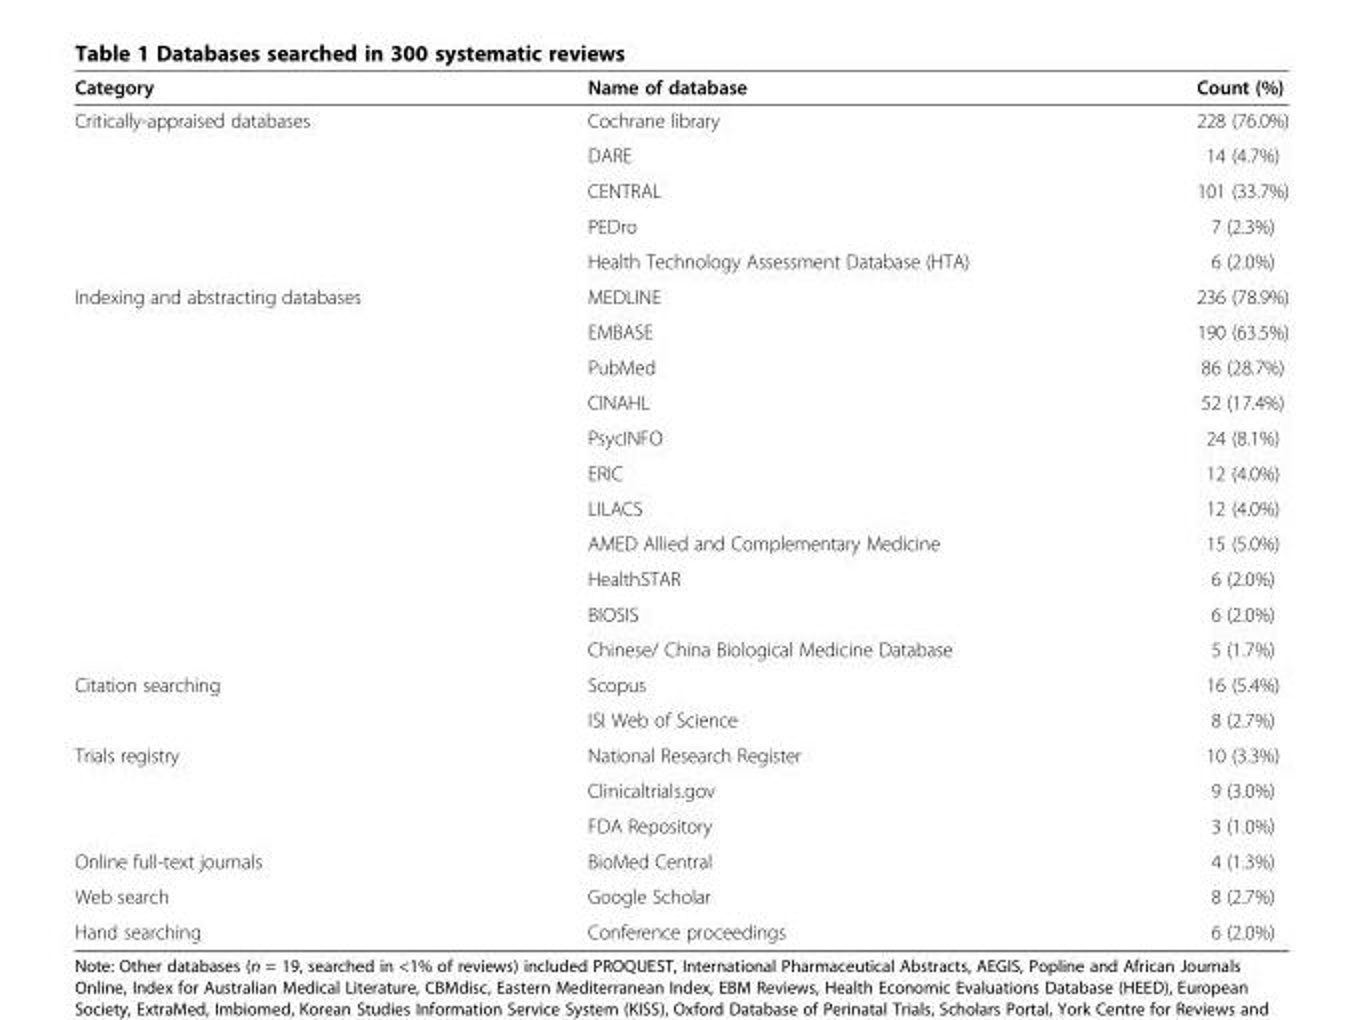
<table><thead><tr><td>Category</td><td>Name of database</td><td>Count (%)</td></tr></thead><tbody><tr><td rowspan="5">Critically-appraised databases</td><td>Cochrane library</td><td>228 (76.0%)</td></tr><tr><td>DARE</td><td>14 (4.7%)</td></tr><tr><td>CENTRAL</td><td>101 (33.7%)</td></tr><tr><td>PEDro</td><td>7 (2.3%)</td></tr><tr><td>Health Technology Assessment Database (HTA)</td><td>6 (2.0%)</td></tr><tr><td rowspan="11">Indexing and abstracting databases</td><td>MEDLINE</td><td>236 (78.9%)</td></tr><tr><td>EMBASE</td><td>190 (63.5%)</td></tr><tr><td>PubMed</td><td>86 (28.7%)</td></tr><tr><td>CINAHL</td><td>52 (17.4%)</td></tr><tr><td>PsycINFO</td><td>24 (8.1%)</td></tr><tr><td>ERIC</td><td>12 (4.0%)</td></tr><tr><td>LILACS</td><td>12 (4.0%)</td></tr><tr><td>AMED Allied and Complementary Medicine</td><td>15 (5.0%)</td></tr><tr><td>HealthSTAR</td><td>6 (2.0%)</td></tr><tr><td>BIOSIS</td><td>6 (2.0%)</td></tr><tr><td>Chinese/ China Biological Medicine Database</td><td>5 (1.7%)</td></tr><tr><td rowspan="2">Citation searching</td><td>Scopus</td><td>16 (5.4%)</td></tr><tr><td>ISI Web of Science</td><td>8 (2.7%)</td></tr><tr><td rowspan="3">Trials registry</td><td>National Research Register</td><td>10 (3.3%)</td></tr><tr><td>Clinicaltrials.gov</td><td>9 (3.0%)</td></tr><tr><td>FDA Repository</td><td>3 (1.0%)</td></tr><tr><td>Online full-text journals</td><td>BioMed Central</td><td>4 (1.3%)</td></tr><tr><td>Web search</td><td>Google Scholar</td><td>8 (2.7%)</td></tr><tr><td>Hand searching</td><td>Conference proceedings</td><td>6 (2.0%)</td></tr></tbody></table>